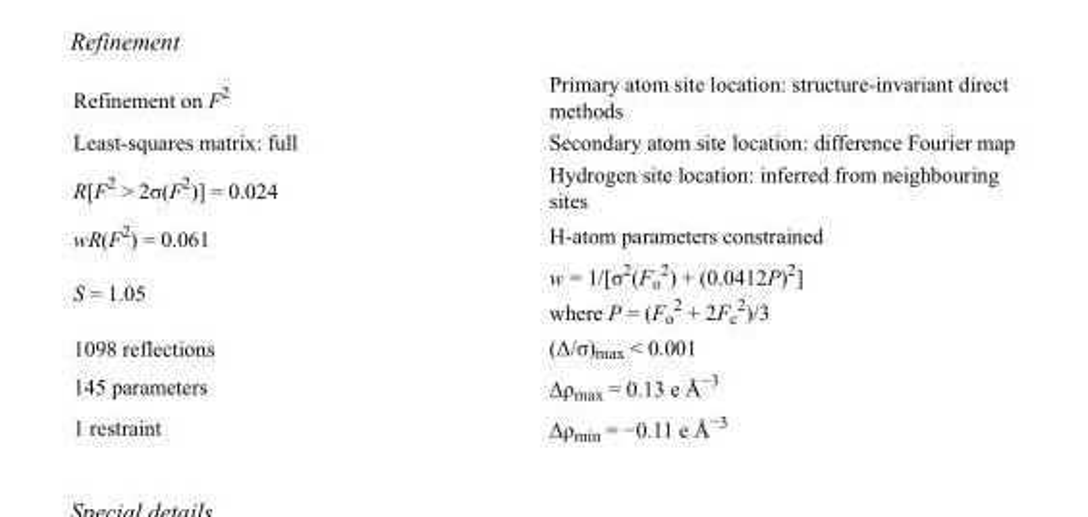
<table><tbody><tr><td>Refinement on F<sup>2</sup></td><td>Primary atom site location: structure-invariant direct methods</td></tr><tr><td>Least-squares matrix: full</td><td>Secondary atom site location: difference Fourier map</td></tr><tr><td>R[F<sup>2</sup> &gt; 2σ(F<sup>2</sup>)] = 0.024</td><td>Hydrogen site location: inferred from neighbouring sites</td></tr><tr><td>wR(F<sup>2</sup>) = 0.061</td><td>H-atom parameters constrained</td></tr><tr><td>S = 1.05</td><td>w = 1/[σ<sup>2</sup>(F<sub>o</sub> <sup>2</sup>) + (0.0412P)<sup>2</sup>] where P = (F<sub>o</sub> <sup>2</sup> + 2F<sub>c</sub> <sup>2</sup>)/3</td></tr><tr><td>1098 reflections</td><td>(Δ/σ)<sub>max</sub> &lt; 0.001</td></tr><tr><td>145 parameters</td><td>Δρ<sub>max</sub> = 0.13 e Å<sup>−3</sup></td></tr><tr><td>1 restraint</td><td>Δρ<sub>min</sub> = −0.11 e Å<sup>−3</sup></td></tr></tbody></table>